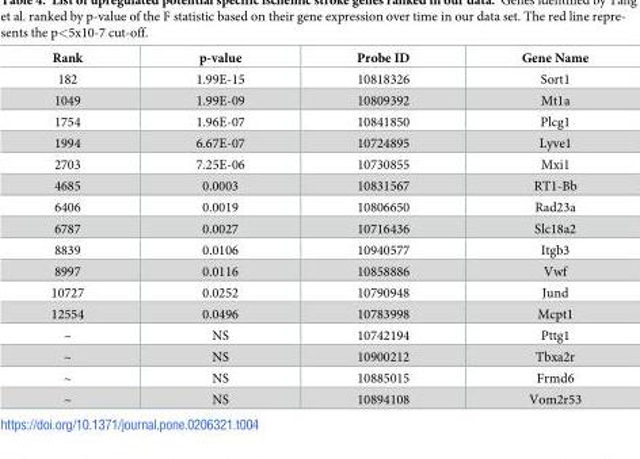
<table><thead><tr><td>Rank</td><td>p-value</td><td>Probe ID</td><td>Gene Name</td></tr></thead><tbody><tr><td>182</td><td>1.99E-15</td><td>10818326</td><td>Sort1</td></tr><tr><td>1049</td><td>1.99E-09</td><td>10809392</td><td>Mt1a</td></tr><tr><td>1754</td><td>1.96E-07</td><td>10841850</td><td>Plcg1</td></tr><tr><td>1994</td><td>6.67E-07</td><td>10724895</td><td>Lyve1</td></tr><tr><td>2703</td><td>7.25E-06</td><td>10730855</td><td>Mxi1</td></tr><tr><td>4685</td><td>0.0003</td><td>10831567</td><td>RT1-Bb</td></tr><tr><td>6406</td><td>0.0019</td><td>10806650</td><td>Rad23a</td></tr><tr><td>6787</td><td>0.0027</td><td>10716436</td><td>Slc18a2</td></tr><tr><td>8839</td><td>0.0106</td><td>10940577</td><td>Itgb3</td></tr><tr><td>8997</td><td>0.0116</td><td>10858886</td><td>Vwf</td></tr><tr><td>10727</td><td>0.0252</td><td>10790948</td><td>Jund</td></tr><tr><td>12554</td><td>0.0496</td><td>10783998</td><td>Mcpt1</td></tr><tr><td>~</td><td>NS</td><td>10742194</td><td>Pttg1</td></tr><tr><td>~</td><td>NS</td><td>10900212</td><td>Tbxa2r</td></tr><tr><td>~</td><td>NS</td><td>10885015</td><td>Frmd6</td></tr><tr><td>~</td><td>NS</td><td>10894108</td><td>Vom2r53</td></tr></tbody></table>